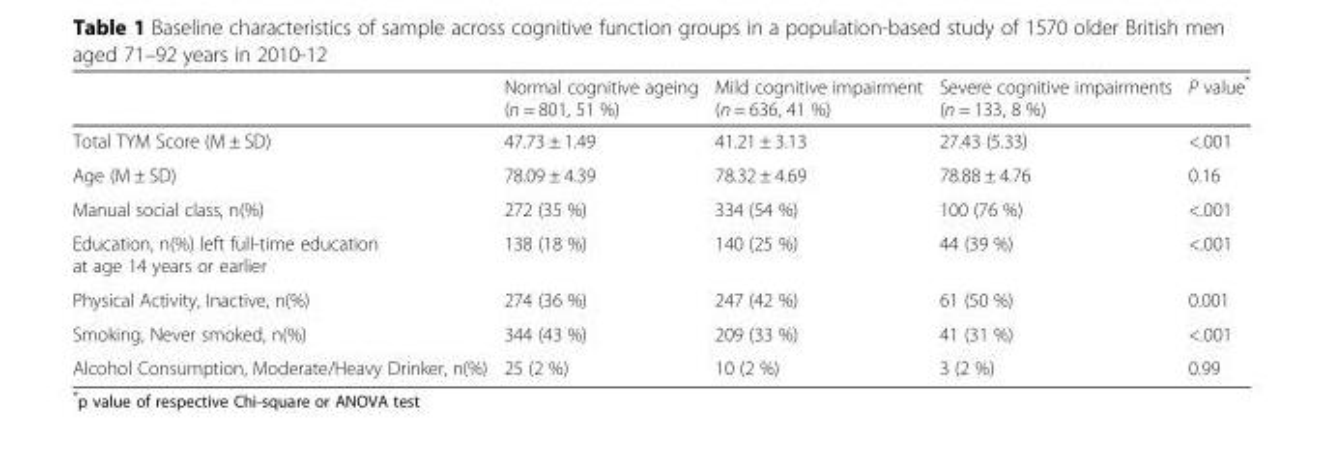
<table><thead><tr><td></td><td>Normal cognitive ageing (n = 801, 51 %)</td><td>Mild cognitive impairment (n = 636, 41 %)</td><td>Severe cognitive impairments (n = 133, 8 %)</td><td>P value*</td></tr></thead><tbody><tr><td>Total TYM Score (M ± SD)</td><td>47.73 ± 1.49</td><td>41.21 ± 3.13</td><td>27.43 (5.33)</td><td>&lt;.001</td></tr><tr><td>Age (M ± SD)</td><td>78.09 ± 4.39</td><td>78.32 ± 4.69</td><td>78.88 ± 4.76</td><td>0.16</td></tr><tr><td>Manual social class, n(%)</td><td>272 (35 %)</td><td>334 (54 %)</td><td>100 (76 %)</td><td>&lt;.001</td></tr><tr><td>Education, n(%) left full-time education at age 14 years or earlier</td><td>138 (18 %)</td><td>140 (25 %)</td><td>44 (39 %)</td><td>&lt;.001</td></tr><tr><td>Physical Activity, Inactive, n(%)</td><td>274 (36 %)</td><td>247 (42 %)</td><td>61 (50 %)</td><td>0.001</td></tr><tr><td>Smoking, Never smoked, n(%)</td><td>344 (43 %)</td><td>209 (33 %)</td><td>41 (31 %)</td><td>&lt;.001</td></tr><tr><td>Alcohol Consumption, Moderate/Heavy Drinker, n(%)</td><td>25 (2 %)</td><td>10 (2 %)</td><td>3 (2 %)</td><td>0.99</td></tr></tbody></table>